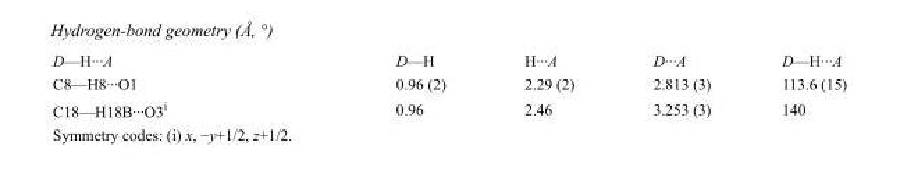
<table><tbody><tr><td>D—H···A</td><td>D—H</td><td>H···A</td><td>D···A</td><td>D—H···A</td></tr><tr><td>C8—H8···O1</td><td>0.96 (2)</td><td>2.29 (2)</td><td>2.813 (3)</td><td>113.6 (15)</td></tr><tr><td>C18—H18B···O3<sup>i</sup></td><td>0.96</td><td>2.46</td><td>3.253 (3)</td><td>140</td></tr></tbody></table>